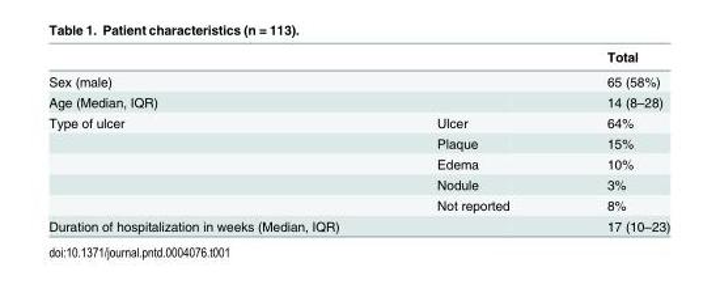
<table><thead><tr><td></td><td></td><td>Total</td></tr></thead><tbody><tr><td>Sex (male)</td><td></td><td>65 (58%)</td></tr><tr><td>Age (Median, IQR)</td><td></td><td>14 (8–28)</td></tr><tr><td rowspan="5">Type of ulcer</td><td>Ulcer</td><td>64%</td></tr><tr><td>Plaque</td><td>15%</td></tr><tr><td>Edema</td><td>10%</td></tr><tr><td>Nodule</td><td>3%</td></tr><tr><td>Not reported</td><td>8%</td></tr><tr><td>Duration of hospitalization in weeks (Median, IQR)</td><td></td><td>17 (10–23)</td></tr></tbody></table>